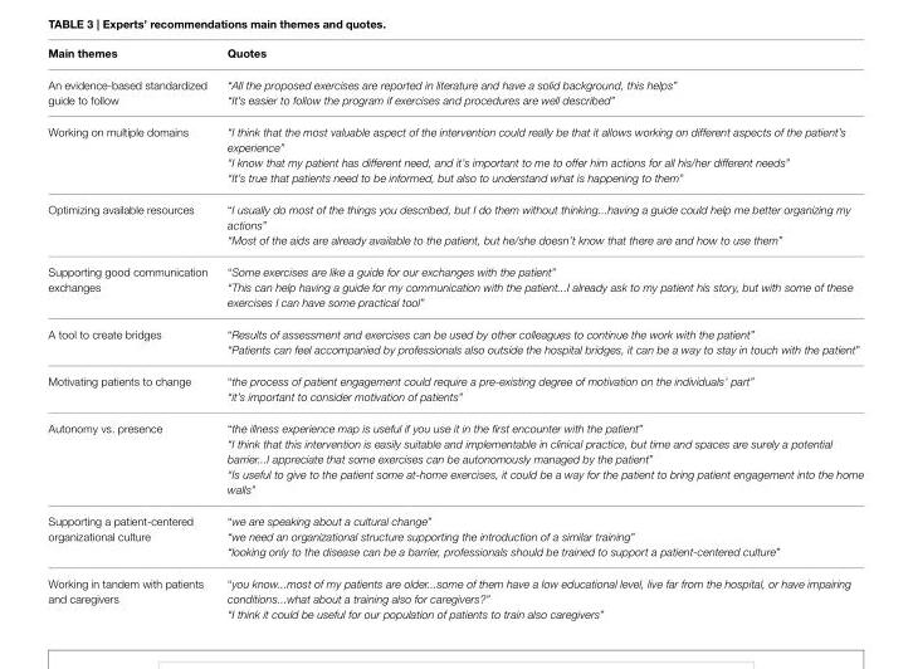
<table><thead><tr><td>Main themes</td><td>Quotes</td></tr></thead><tbody><tr><td>An evidence-based standardized guide to follow</td><td>“All the proposed exercises are reported in literature and have a solid background, this helps” “It’s easier to follow the program if exercises and procedures are well described”</td></tr><tr><td>Working on multiple domains</td><td>“I think that the most valuable aspect of the intervention could really be that it allows working on different aspects of the patient’s experience” “I know that my patient has different need, and it’s important to me to offer him actions for all his/her different needs” “It’s true that patients need to be informed, but also to understand what is happening to them”</td></tr><tr><td>Optimizing available resources</td><td>“I usually do most of the things you described, but I do them without thinking...having a guide could help me better organizing my actions” “Most of the aids are already available to the patient, but he/she doesn’t know that there are and how to use them”</td></tr><tr><td>Supporting good communication exchanges</td><td>“Some exercises are like a guide for our exchanges with the patient” “This can help having a guide for my communication with the patient...I already ask to my patient his story, but with some of these exercises I can have some practical tool”</td></tr><tr><td>A tool to create bridges</td><td>“Results of assessment and exercises can be used by other colleagues to continue the work with the patient” “Patients can feel accompanied by professionals also outside the hospital bridges, it can be a way to stay in touch with the patient”</td></tr><tr><td>Motivating patients to change</td><td>“the process of patient engagement could require a pre-existing degree of motivation on the individuals’ part” “it’s important to consider motivation of patients”</td></tr><tr><td>Autonomy vs. presence</td><td>“the illness experience map is useful if you use it in the first encounter with the patient” “I think that this intervention is easily suitable and implementable in clinical practice, but time and spaces are surely a potential barrier...I appreciate that some exercises can be autonomously managed by the patient” “Is useful to give to the patient some at-home exercises, it could be a way for the patient to bring patient engagement into the home walls”</td></tr><tr><td>Supporting a patient-centered organizational culture</td><td>“we are speaking about a cultural change” “we need an organizational structure supporting the introduction of a similar training” “looking only to the disease can be a barrier, professionals should be trained to support a patient-centered culture”</td></tr><tr><td>Working in tandem with patients and caregivers</td><td>“you know...most of my patients are older...some of them have a low educational level, live far from the hospital, or have impairing conditions...what about a training also for caregivers?” “I think it could be useful for our population of patients to train also caregivers”</td></tr></tbody></table>